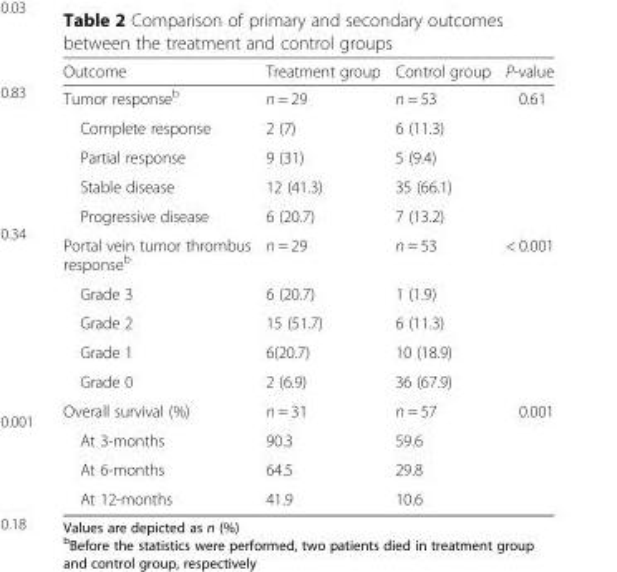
<table><thead><tr><td>Outcome</td><td>Treatment group</td><td>Control group</td><td>P-value</td></tr></thead><tbody><tr><td>Tumor response<sup>b</sup></td><td>n = 29</td><td>n = 53</td><td>0.61</td></tr><tr><td>Complete response</td><td>2 (7)</td><td>6 (11.3)</td><td></td></tr><tr><td>Partial response</td><td>9 (31)</td><td>5 (9.4)</td><td></td></tr><tr><td>Stable disease</td><td>12 (41.3)</td><td>35 (66.1)</td><td></td></tr><tr><td>Progressive disease</td><td>6 (20.7)</td><td>7 (13.2)</td><td></td></tr><tr><td>Portal vein tumor thrombus response<sup>b</sup></td><td>n = 29</td><td>n = 53</td><td>&lt; 0.001</td></tr><tr><td>Grade 3</td><td>6 (20.7)</td><td>1 (1.9)</td><td></td></tr><tr><td>Grade 2</td><td>15 (51.7)</td><td>6 (11.3)</td><td></td></tr><tr><td>Grade 1</td><td>6(20.7)</td><td>10 (18.9)</td><td></td></tr><tr><td>Grade 0</td><td>2 (6.9)</td><td>36 (67.9)</td><td></td></tr><tr><td>Overall survival (%)</td><td>n = 31</td><td>n = 57</td><td>0.001</td></tr><tr><td>At 3-months</td><td>90.3</td><td>59.6</td><td></td></tr><tr><td>At 6-months</td><td>64.5</td><td>29.8</td><td></td></tr><tr><td>At 12-months</td><td>41.9</td><td>10.6</td><td></td></tr></tbody></table>